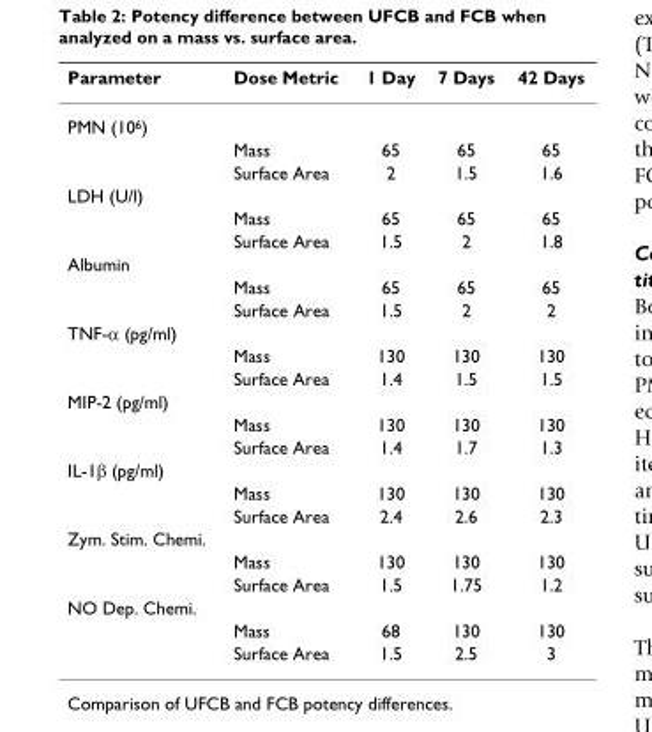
<table><thead><tr><td>Parameter</td><td>Dose Metric</td><td>1 Day</td><td>7 Days</td><td>42 Days</td></tr></thead><tbody><tr><td colspan="5">PMN (10<sup>6</sup>)</td></tr><tr><td></td><td>Mass</td><td>65</td><td>65</td><td>65</td></tr><tr><td></td><td>Surface Area</td><td>2</td><td>1.5</td><td>1.6</td></tr><tr><td colspan="5">LDH (U/l)</td></tr><tr><td></td><td>Mass</td><td>65</td><td>65</td><td>65</td></tr><tr><td></td><td>Surface Area</td><td>1.5</td><td>2</td><td>1.8</td></tr><tr><td colspan="5">Albumin</td></tr><tr><td></td><td>Mass</td><td>65</td><td>65</td><td>65</td></tr><tr><td></td><td>Surface Area</td><td>1.5</td><td>2</td><td>2</td></tr><tr><td colspan="5">TNF-α (pg/ml)</td></tr><tr><td></td><td>Mass</td><td>130</td><td>130</td><td>130</td></tr><tr><td></td><td>Surface Area</td><td>1.4</td><td>1.5</td><td>1.5</td></tr><tr><td colspan="5">MIP-2 (pg/ml)</td></tr><tr><td></td><td>Mass</td><td>130</td><td>130</td><td>130</td></tr><tr><td></td><td>Surface Area</td><td>1.4</td><td>1.7</td><td>1.3</td></tr><tr><td colspan="5">IL-1β (pg/ml)</td></tr><tr><td></td><td>Mass</td><td>130</td><td>130</td><td>130</td></tr><tr><td></td><td>Surface Area</td><td>2.4</td><td>2.6</td><td>2.3</td></tr><tr><td colspan="5">Zym. Stim. Chemi.</td></tr><tr><td></td><td>Mass</td><td>130</td><td>130</td><td>130</td></tr><tr><td></td><td>Surface Area</td><td>1.5</td><td>1.75</td><td>1.2</td></tr><tr><td colspan="5">NO Dep. Chemi.</td></tr><tr><td></td><td>Mass</td><td>68</td><td>130</td><td>130</td></tr><tr><td></td><td>Surface Area</td><td>1.5</td><td>2.5</td><td>3</td></tr></tbody></table>